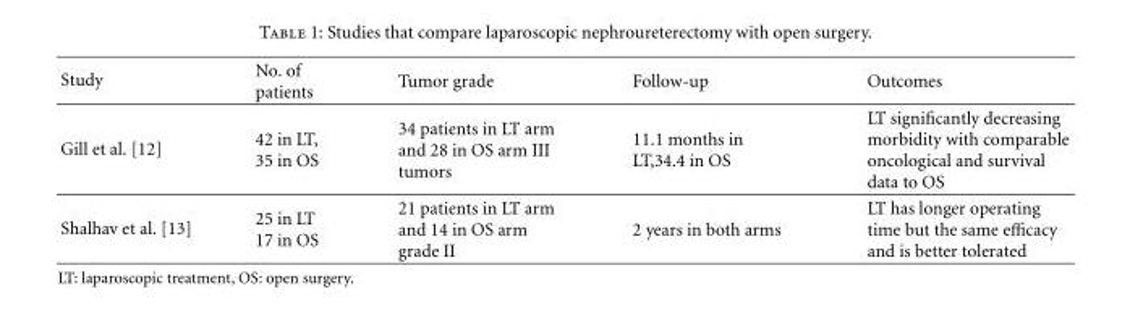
<table><thead><tr><td>Study</td><td>No. of patients</td><td>Tumor grade</td><td>Follow-up</td><td>Outcomes</td></tr></thead><tbody><tr><td>Gill et al. [12]</td><td>42 in LT, 35 in OS</td><td>34 patients in LT arm and 28 in OS arm III tumors</td><td>11.1 months in LT,34.4 in OS</td><td>LT significantly decreasing morbidity with comparable oncological and survival data to OS</td></tr><tr><td>Shalhav et al. [13]</td><td>25 in LT 17 in OS</td><td>21 patients in LT arm and 14 in OS arm grade II</td><td>2 years in both arms</td><td>LT has longer operating time but the same efficacy and is better tolerated</td></tr></tbody></table>